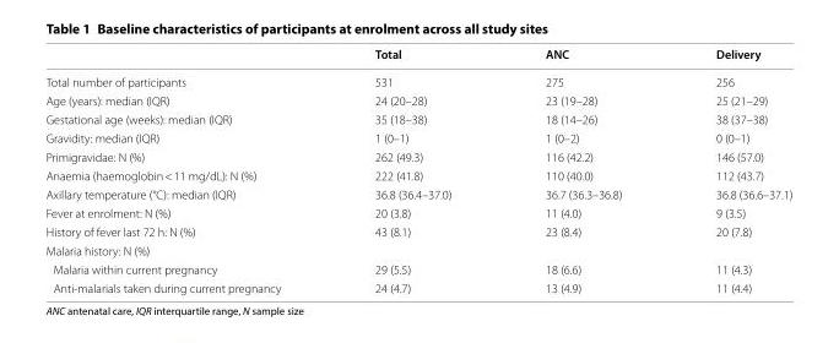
<table><thead><tr><td></td><td>Total</td><td>ANC</td><td>Delivery</td></tr></thead><tbody><tr><td>Total number of participants</td><td>531</td><td>275</td><td>256</td></tr><tr><td>Age (years): median (IQR)</td><td>24 (20–28)</td><td>23 (19–28)</td><td>25 (21–29)</td></tr><tr><td>Gestational age (weeks): median (IQR)</td><td>35 (18–38)</td><td>18 (14–26)</td><td>38 (37–38)</td></tr><tr><td>Gravidity: median (IQR)</td><td>1 (0–1)</td><td>1 (0–2)</td><td>0 (0–1)</td></tr><tr><td>Primigravidae: N (%)</td><td>262 (49.3)</td><td>116 (42.2)</td><td>146 (57.0)</td></tr><tr><td>Anaemia (haemoglobin &lt; 11 mg/dL): N (%)</td><td>222 (41.8)</td><td>110 (40.0)</td><td>112 (43.7)</td></tr><tr><td>Axillary temperature (°C): median (IQR)</td><td>36.8 (36.4–37.0)</td><td>36.7 (36.3–36.8)</td><td>36.8 (36.6–37.1)</td></tr><tr><td>Fever at enrolment: N (%)</td><td>20 (3.8)</td><td>11 (4.0)</td><td>9 (3.5)</td></tr><tr><td>History of fever last 72 h: N (%)</td><td>43 (8.1)</td><td>23 (8.4)</td><td>20 (7.8)</td></tr><tr><td colspan="4">Malaria history: N (%)</td></tr><tr><td>Malaria within current pregnancy</td><td>29 (5.5)</td><td>18 (6.6)</td><td>11 (4.3)</td></tr><tr><td>Anti-malarials taken during current pregnancy</td><td>24 (4.7)</td><td>13 (4.9)</td><td>11 (4.4)</td></tr></tbody></table>